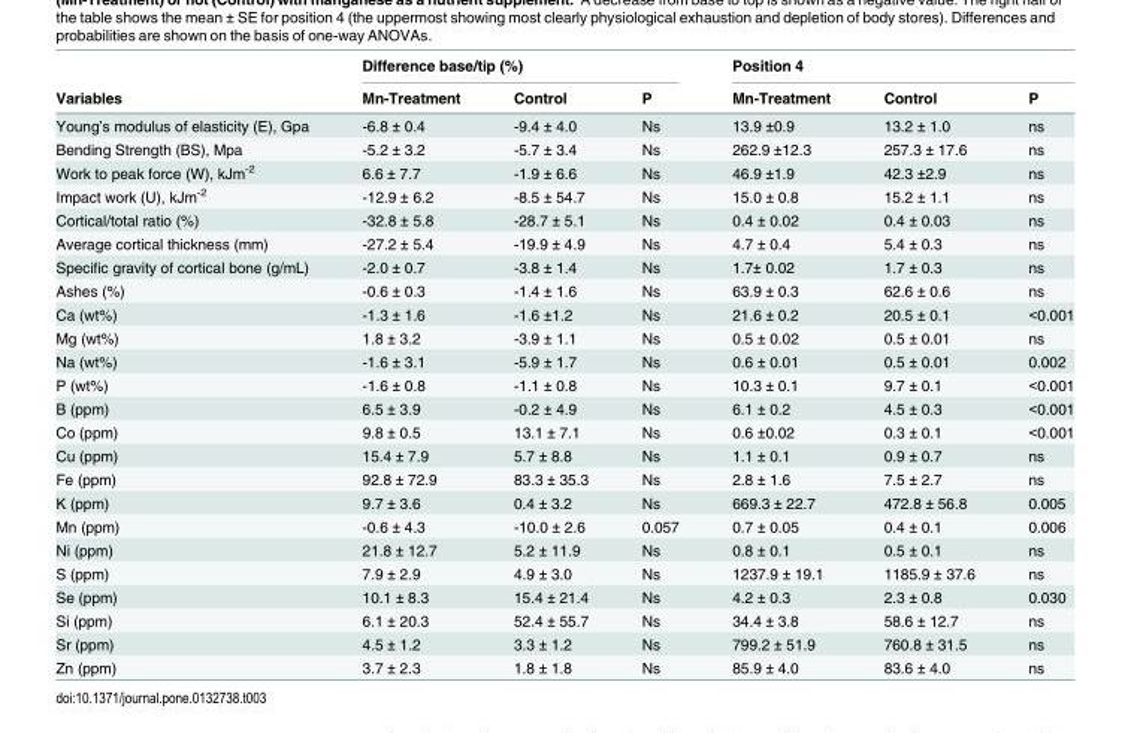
<table><thead><tr><td rowspan="2">Variables</td><td colspan="3">Difference base/tip (%)</td><td colspan="3">Position 4</td></tr><tr><td>Mn-Treatment</td><td>Control</td><td>P</td><td>Mn-Treatment</td><td>Control</td><td>P</td></tr></thead><tbody><tr><td>Young’s modulus of elasticity (E), Gpa</td><td>-6.8 ± 0.4</td><td>-9.4 ± 4.0</td><td>Ns</td><td>13.9 ±0.9</td><td>13.2 ± 1.0</td><td>ns</td></tr><tr><td>Bending Strength (BS), Mpa</td><td>-5.2 ± 3.2</td><td>-5.7 ± 3.4</td><td>Ns</td><td>262.9 ±12.3</td><td>257.3 ± 17.6</td><td>ns</td></tr><tr><td>Work to peak force (W), kJm<sup>-2</sup></td><td>6.6 ± 7.7</td><td>-1.9 ± 6.6</td><td>Ns</td><td>46.9 ±1.9</td><td>42.3 ±2.9</td><td>ns</td></tr><tr><td>Impact work (U), kJm<sup>-2</sup></td><td>-12.9 ± 6.2</td><td>-8.5 ± 54.7</td><td>Ns</td><td>15.0 ± 0.8</td><td>15.2 ± 1.1</td><td>ns</td></tr><tr><td>Cortical/total ratio (%)</td><td>-32.8 ± 5.8</td><td>-28.7 ± 5.1</td><td>Ns</td><td>0.4 ± 0.02</td><td>0.4 ± 0.03</td><td>ns</td></tr><tr><td>Average cortical thickness (mm)</td><td>-27.2 ± 5.4</td><td>-19.9 ± 4.9</td><td>Ns</td><td>4.7 ± 0.4</td><td>5.4 ± 0.3</td><td>ns</td></tr><tr><td>Specific gravity of cortical bone (g/mL)</td><td>-2.0 ± 0.7</td><td>-3.8 ± 1.4</td><td>Ns</td><td>1.7± 0.02</td><td>1.7 ± 0.3</td><td>ns</td></tr><tr><td>Ashes (%)</td><td>-0.6 ± 0.3</td><td>-1.4 ± 1.6</td><td>Ns</td><td>63.9 ± 0.3</td><td>62.6 ± 0.6</td><td>ns</td></tr><tr><td>Ca (wt%)</td><td>-1.3 ± 1.6</td><td>-1.6 ±1.2</td><td>Ns</td><td>21.6 ± 0.2</td><td>20.5 ± 0.1</td><td>&lt;0.001</td></tr><tr><td>Mg (wt%)</td><td>1.8 ± 3.2</td><td>-3.9 ± 1.1</td><td>Ns</td><td>0.5 ± 0.02</td><td>0.5 ± 0.01</td><td>ns</td></tr><tr><td>Na (wt%)</td><td>-1.6 ± 3.1</td><td>-5.9 ± 1.7</td><td>Ns</td><td>0.6 ± 0.01</td><td>0.5 ± 0.01</td><td>0.002</td></tr><tr><td>P (wt%)</td><td>-1.6 ± 0.8</td><td>-1.1 ± 0.8</td><td>Ns</td><td>10.3 ± 0.1</td><td>9.7 ± 0.1</td><td>&lt;0.001</td></tr><tr><td>B (ppm)</td><td>6.5 ± 3.9</td><td>-0.2 ± 4.9</td><td>Ns</td><td>6.1 ± 0.2</td><td>4.5 ± 0.3</td><td>&lt;0.001</td></tr><tr><td>Co (ppm)</td><td>9.8 ± 0.5</td><td>13.1 ± 7.1</td><td>Ns</td><td>0.6 ±0.02</td><td>0.3 ± 0.1</td><td>&lt;0.001</td></tr><tr><td>Cu (ppm)</td><td>15.4 ± 7.9</td><td>5.7 ± 8.8</td><td>Ns</td><td>1.1 ± 0.1</td><td>0.9 ± 0.7</td><td>ns</td></tr><tr><td>Fe (ppm)</td><td>92.8 ± 72.9</td><td>83.3 ± 35.3</td><td>Ns</td><td>2.8 ± 1.6</td><td>7.5 ± 2.7</td><td>ns</td></tr><tr><td>K (ppm)</td><td>9.7 ± 3.6</td><td>0.4 ± 3.2</td><td>Ns</td><td>669.3 ± 22.7</td><td>472.8 ± 56.8</td><td>0.005</td></tr><tr><td>Mn (ppm)</td><td>-0.6 ± 4.3</td><td>-10.0 ± 2.6</td><td>0.057</td><td>0.7 ± 0.05</td><td>0.4 ± 0.1</td><td>0.006</td></tr><tr><td>Ni (ppm)</td><td>21.8 ± 12.7</td><td>5.2 ± 11.9</td><td>Ns</td><td>0.8 ± 0.1</td><td>0.5 ± 0.1</td><td>ns</td></tr><tr><td>S (ppm)</td><td>7.9 ± 2.9</td><td>4.9 ± 3.0</td><td>Ns</td><td>1237.9 ± 19.1</td><td>1185.9 ± 37.6</td><td>ns</td></tr><tr><td>Se (ppm)</td><td>10.1 ± 8.3</td><td>15.4 ± 21.4</td><td>Ns</td><td>4.2 ± 0.3</td><td>2.3 ± 0.8</td><td>0.030</td></tr><tr><td>Si (ppm)</td><td>6.1 ± 20.3</td><td>52.4 ± 55.7</td><td>Ns</td><td>34.4 ± 3.8</td><td>58.6 ± 12.7</td><td>ns</td></tr><tr><td>Sr (ppm)</td><td>4.5 ± 1.2</td><td>3.3 ± 1.2</td><td>Ns</td><td>799.2 ± 51.9</td><td>760.8 ± 31.5</td><td>ns</td></tr><tr><td>Zn (ppm)</td><td>3.7 ± 2.3</td><td>1.8 ± 1.8</td><td>Ns</td><td>85.9 ± 4.0</td><td>83.6 ± 4.0</td><td>ns</td></tr></tbody></table>